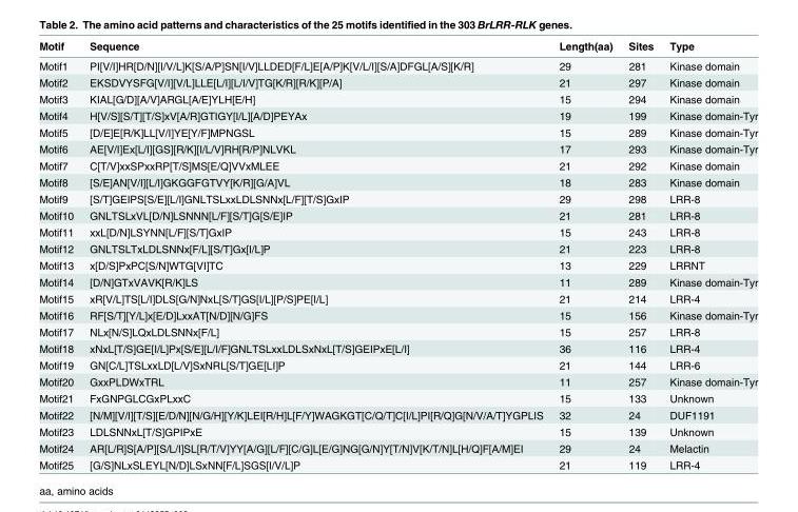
<table><thead><tr><td>Motif</td><td>Sequence</td><td>Length(aa)</td><td>Sites</td><td>Type</td></tr></thead><tbody><tr><td>Motif1</td><td>PI[V/I]HR[D/N][I/V/L]K[S/A/P]SN[I/V]LLDED[F/L]E[A/P]K[V/L/I][S/A]DFGL[A/S][K/R]</td><td>29</td><td>281</td><td>Kinase domain</td></tr><tr><td>Motif2</td><td>EKSDVYSFG[V/I][V/L]LLE[L/I][L/I/V]TG[K/R][R/K][P/A]</td><td>21</td><td>297</td><td>Kinase domain</td></tr><tr><td>Motif3</td><td>KIAL[G/D][A/V]ARGL[A/E]YLH[E/H]</td><td>15</td><td>294</td><td>Kinase domain</td></tr><tr><td>Motif4</td><td>H[V/S][S/T][T/S]xV[A/R]GTIGY[I/L][A/D]PEYAx</td><td>19</td><td>199</td><td>Kinase domain-Tyr</td></tr><tr><td>Motif5</td><td>[D/E]E[R/K]LL[V/I]YE[Y/F]MPNGSL</td><td>15</td><td>289</td><td>Kinase domain-Tyr</td></tr><tr><td>Motif6</td><td>AE[V/I]Ex[L/I][GS][R/K][I/L/V]RH[R/P]NLVKL</td><td>17</td><td>293</td><td>Kinase domain-Tyr</td></tr><tr><td>Motif7</td><td>C[T/V]xxSPxxRP[T/S]MS[E/Q]VVxMLEE</td><td>21</td><td>292</td><td>Kinase domain</td></tr><tr><td>Motif8</td><td>[S/E]AN[V/I][L/I]GKGGFGTVY[K/R][G/A]VL</td><td>18</td><td>283</td><td>Kinase domain</td></tr><tr><td>Motif9</td><td>[S/T]GEIPS[S/E][L/I]GNLTSLxxLDLSNNx[L/F][T/S]GxIP</td><td>29</td><td>298</td><td>LRR-8</td></tr><tr><td>Motif10</td><td>GNLTSLxVL[D/N]LSNNN[L/F][S/T]G[S/E]IP</td><td>21</td><td>281</td><td>LRR-8</td></tr><tr><td>Motif11</td><td>xxL[D/N]LSYNN[L/F][S/T]GxIP</td><td>15</td><td>243</td><td>LRR-8</td></tr><tr><td>Motif12</td><td>GNLTSLTxLDLSNNx[F/L][S/T]Gx[I/L]P</td><td>21</td><td>223</td><td>LRR-8</td></tr><tr><td>Motif13</td><td>x[D/S]PxPC[S/N]WTG[VI]TC</td><td>13</td><td>229</td><td>LRRNT</td></tr><tr><td>Motif14</td><td>[D/N]GTxVAVK[R/K]LS</td><td>11</td><td>289</td><td>Kinase domain-Tyr</td></tr><tr><td>Motif15</td><td>xR[V/L]TS[L/I]DLS[G/N]NxL[S/T]GS[I/L][P/S]PE[I/L]</td><td>21</td><td>214</td><td>LRR-4</td></tr><tr><td>Motif16</td><td>RF[S/T][Y/L]x[E/D]LxxAT[N/D][N/G]FS</td><td>15</td><td>156</td><td>Kinase domain-Tyr</td></tr><tr><td>Motif17</td><td>NLx[N/S]LQxLDLSNNx[F/L]</td><td>15</td><td>257</td><td>LRR-8</td></tr><tr><td>Motif18</td><td>xNxL[T/S]GE[I/L]Px[S/E][L/I/F]GNLTSLxxLDLSxNxL[T/S]GEIPxE[L/I]</td><td>36</td><td>116</td><td>LRR-4</td></tr><tr><td>Motif19</td><td>GN[C/L]TSLxxLD[L/V]SxNRL[S/T]GE[LI]P</td><td>21</td><td>144</td><td>LRR-6</td></tr><tr><td>Motif20</td><td>GxxPLDWxTRL</td><td>11</td><td>257</td><td>Kinase domain-Tyr</td></tr><tr><td>Motif21</td><td>FxGNPGLCGxPLxxC</td><td>15</td><td>133</td><td>Unknown</td></tr><tr><td>Motif22</td><td>[N/M][V/I][T/S][E/D/N][N/G/H][Y/K]LEI[R/H]L[F/Y]WAGKGT[C/Q/T]C[I/L]PI[R/Q]G[N/V/A/T]YGPLIS</td><td>32</td><td>24</td><td>DUF1191</td></tr><tr><td>Motif23</td><td>LDLSNNxL[T/S]GPIPxE</td><td>15</td><td>139</td><td>Unknown</td></tr><tr><td>Motif24</td><td>AR[L/R]S[A/P][S/L/I]SL[R/T/V]YY[A/G][L/F][C/G]L[E/G]NG[G/N]Y[T/N]V[K/T/N]L[H/Q]F[A/M]EI</td><td>29</td><td>24</td><td>Melactin</td></tr><tr><td>Motif25</td><td>[G/S]NLxSLEYL[N/D]LSxNN[F/L]SGS[I/V/L]P</td><td>21</td><td>119</td><td>LRR-4</td></tr></tbody></table>